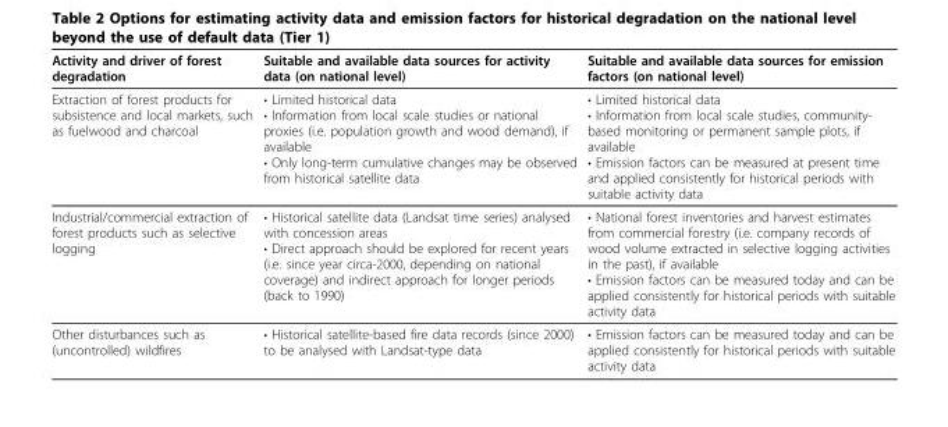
<table><thead><tr><td>Activity and driver of forest degradation</td><td>Suitable and available data sources for activity data (on national level)</td><td>Suitable and available data sources for emission factors (on national level)</td></tr></thead><tbody><tr><td>Extraction of forest products for subsistence and local markets, such as fuelwood and charcoal</td><td>• Limited historical data • Information from local scale studies or national proxies (i.e. population growth and wood demand), if available • Only long-term cumulative changes may be observed from historical satellite data</td><td>• Limited historical data • Information from local scale studies, community- based monitoring or permanent sample plots, if available • Emission factors can be measured at present time and applied consistently for historical periods with suitable activity data</td></tr><tr><td>Industrial/commercial extraction of forest products such as selective logging</td><td>• Historical satellite data (Landsat time series) analysed with concession areas • Direct approach should be explored for recent years (i.e. since year circa-2000, depending on national coverage) and indirect approach for longer periods (back to 1990)</td><td>• National forest inventories and harvest estimates from commercial forestry (i.e. company records of wood volume extracted in selective logging activities in the past), if available • Emission factors can be measured today and can be applied consistently for historical periods with suitable activity data</td></tr><tr><td>Other disturbances such as (uncontrolled) wildfires</td><td>• Historical satellite-based fire data records (since 2000) to be analysed with Landsat-type data</td><td>• Emission factors can be measured today and can be applied consistently for historical periods with suitable activity data</td></tr></tbody></table>